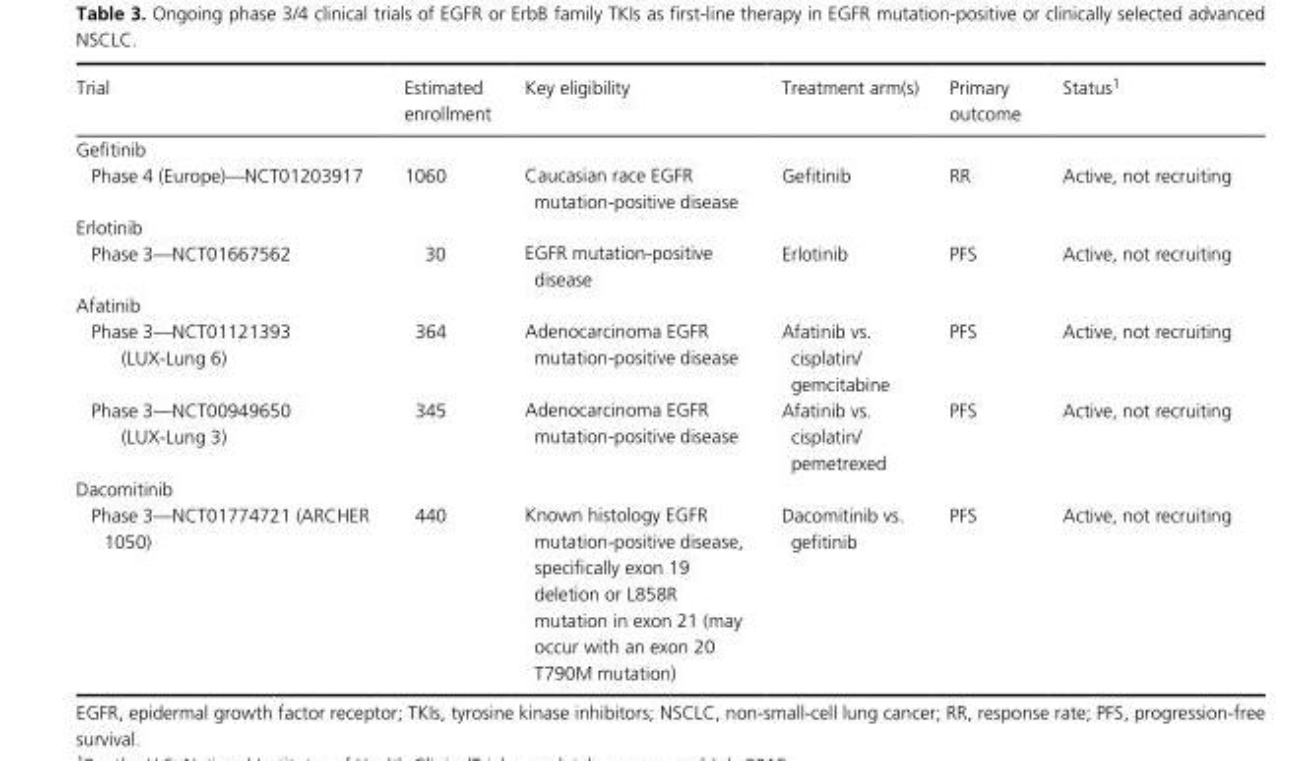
<table><thead><tr><td>Trial</td><td>Estimated enrollment</td><td>Key eligibility</td><td>Treatment arm(s)</td><td>Primary outcome</td><td>Status<sup>1</sup></td></tr></thead><tbody><tr><td colspan="6">Gefitinib</td></tr><tr><td>Phase 4 (Europe)—NCT01203917</td><td>1060</td><td>Caucasian race EGFR mutation- positive disease</td><td>Gefitinib</td><td>RR</td><td>Active, not recruiting</td></tr><tr><td colspan="6">Erlotinib</td></tr><tr><td>Phase 3—NCT01667562</td><td>30</td><td>EGFR mutation- positive disease</td><td>Erlotinib</td><td>PFS</td><td>Active, not recruiting</td></tr><tr><td colspan="6">Afatinib</td></tr><tr><td>Phase 3—NCT01121393 (LUX- Lung 6)</td><td>364</td><td>Adenocarcinoma EGFR mutation- positive disease</td><td>Afatinib vs. cisplatin/ gemcitabine</td><td>PFS</td><td>Active, not recruiting</td></tr><tr><td>Phase 3—NCT00949650 (LUX- Lung 3)</td><td>345</td><td>Adenocarcinoma EGFR mutation- positive disease</td><td>Afatinib vs. cisplatin/ pemetrexed</td><td>PFS</td><td>Active, not recruiting</td></tr><tr><td colspan="6">Dacomitinib</td></tr><tr><td>Phase 3—NCT01774721 (ARCHER 1050)</td><td>440</td><td>Known histology EGFR mutation- positive disease, specifically exon 19 deletion or L858R mutation in exon 21 (may occur with an exon 20 T790M mutation)</td><td>Dacomitinib vs. gefitinib</td><td>PFS</td><td>Active, not recruiting</td></tr></tbody></table>